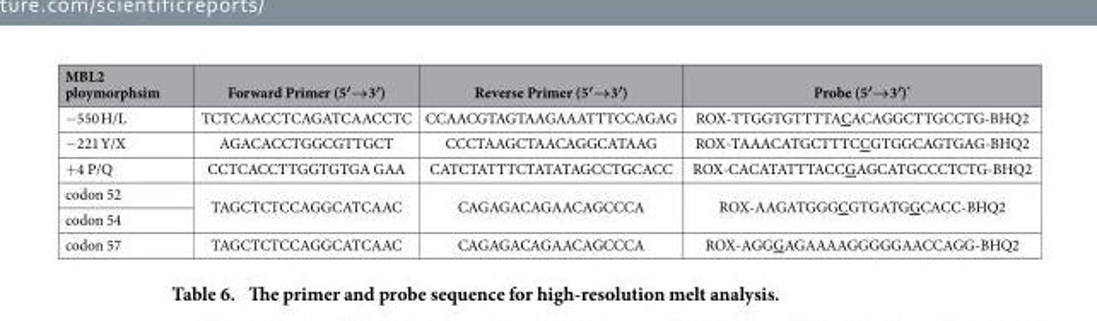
<table><thead><tr><td>MBL2 ploymorphsim</td><td>Forward Primer (5′→3′)</td><td>Reverse Primer (5′→3′)</td><td>Probe (5′→3′)*</td></tr></thead><tbody><tr><td>− 550 H/L</td><td>TCTCAACCTCAGATCAACCTC</td><td>CCAACGTAGTAAGAAATTTCCAGAG</td><td>ROX-TTGGTGTTTTACACAGGCTTGCCTG-BHQ2</td></tr><tr><td>− 221 Y/X</td><td>AGACACCTGGCGTTGCT</td><td>CCCTAAGCTAACAGGCATAAG</td><td>ROX-TAAACATGCTTTCCGTGGCAGTGAG-BHQ2</td></tr><tr><td>+ 4 P/Q</td><td>CCTCACCTTGGTGTGA GAA</td><td>CATCTATTTCTATATAGCCTGCACC</td><td>ROX-CACATATTTACCGAGCATGCCCTCTG-BHQ2</td></tr><tr><td>codon 52</td><td rowspan="2">TAGCTCTCCAGGCATCAAC</td><td rowspan="2">CAGAGACAGAACAGCCCA</td><td rowspan="2">ROX-AAGATGGGCGTGATGGCACC-BHQ2</td></tr><tr><td>codon 54</td></tr><tr><td>codon 57</td><td>TAGCTCTCCAGGCATCAAC</td><td>CAGAGACAGAACAGCCCA</td><td>ROX-AGGGAGAAAAGGGGGAACCAGG-BHQ2</td></tr></tbody></table>